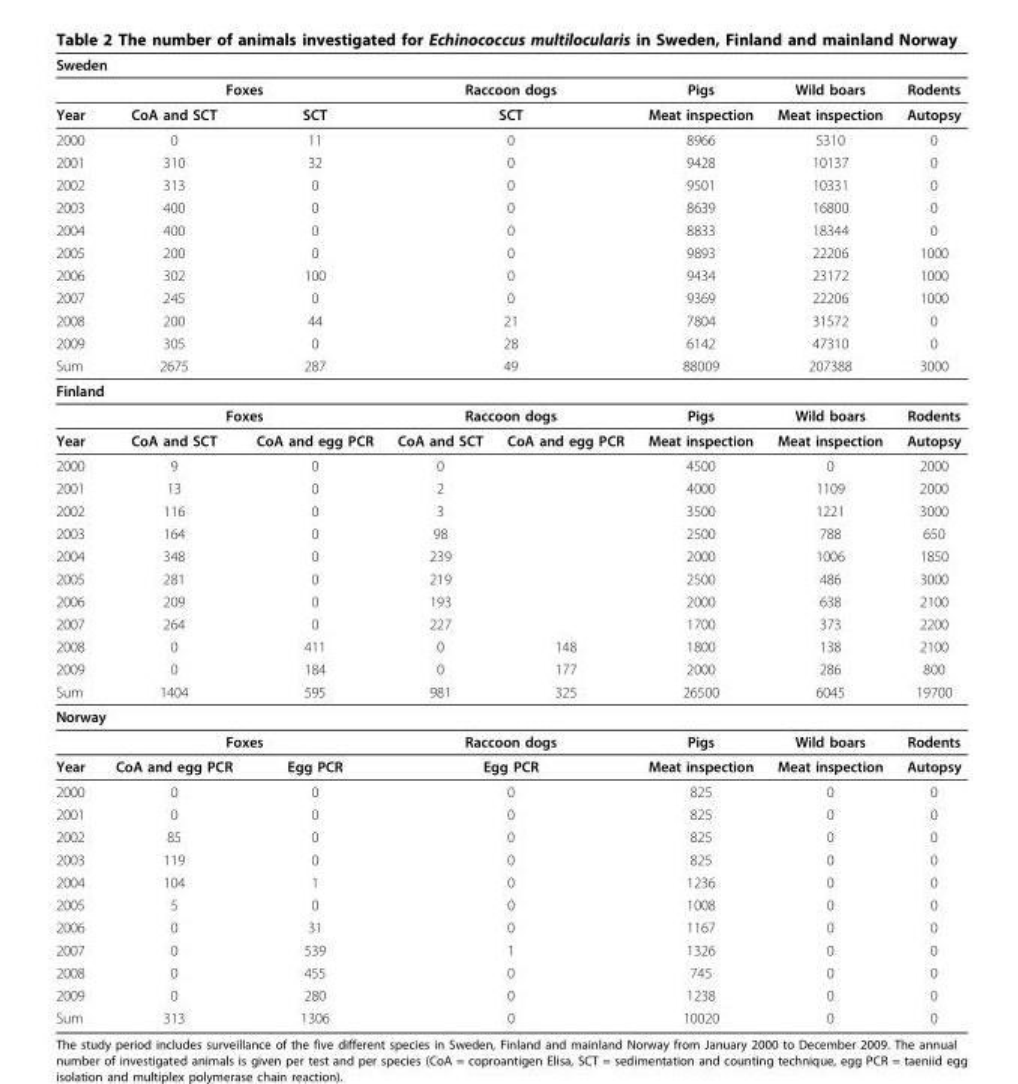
<table><thead><tr><td colspan="8">Sweden</td></tr></thead><tbody><tr><td></td><td colspan="2">Foxes</td><td colspan="2">Raccoon dogs</td><td>Pigs</td><td>Wild boars</td><td>Rodents</td></tr><tr><td>Year</td><td>CoA and SCT</td><td>SCT</td><td colspan="2">SCT</td><td>Meat inspection</td><td>Meat inspection</td><td>Autopsy</td></tr><tr><td>2000</td><td>0</td><td>11</td><td colspan="2">0</td><td>8966</td><td>5310</td><td>0</td></tr><tr><td>2001</td><td>310</td><td>32</td><td colspan="2">0</td><td>9428</td><td>10137</td><td>0</td></tr><tr><td>2002</td><td>313</td><td>0</td><td colspan="2">0</td><td>9501</td><td>10331</td><td>0</td></tr><tr><td>2003</td><td>400</td><td>0</td><td colspan="2">0</td><td>8639</td><td>16800</td><td>0</td></tr><tr><td>2004</td><td>400</td><td>0</td><td colspan="2">0</td><td>8833</td><td>18344</td><td>0</td></tr><tr><td>2005</td><td>200</td><td>0</td><td colspan="2">0</td><td>9893</td><td>22206</td><td>1000</td></tr><tr><td>2006</td><td>302</td><td>100</td><td colspan="2">0</td><td>9434</td><td>23172</td><td>1000</td></tr><tr><td>2007</td><td>245</td><td>0</td><td colspan="2">0</td><td>9369</td><td>22206</td><td>1000</td></tr><tr><td>2008</td><td>200</td><td>44</td><td colspan="2">21</td><td>7804</td><td>31572</td><td>0</td></tr><tr><td>2009</td><td>305</td><td>0</td><td colspan="2">28</td><td>6142</td><td>47310</td><td>0</td></tr><tr><td>Sum</td><td>2675</td><td>287</td><td colspan="2">49</td><td>88009</td><td>207388</td><td>3000</td></tr><tr><td colspan="8">Finland</td></tr><tr><td></td><td colspan="2">Foxes</td><td colspan="2">Raccoon dogs</td><td>Pigs</td><td>Wild boars</td><td>Rodents</td></tr><tr><td>Year</td><td>CoA and SCT</td><td>CoA and egg PCR</td><td>CoA and SCT</td><td>CoA and egg PCR</td><td>Meat inspection</td><td>Meat inspection</td><td>Autopsy</td></tr><tr><td>2000</td><td>9</td><td>0</td><td>0</td><td></td><td>4500</td><td>0</td><td>2000</td></tr><tr><td>2001</td><td>13</td><td>0</td><td>2</td><td></td><td>4000</td><td>1109</td><td>2000</td></tr><tr><td>2002</td><td>116</td><td>0</td><td>3</td><td></td><td>3500</td><td>1221</td><td>3000</td></tr><tr><td>2003</td><td>164</td><td>0</td><td>98</td><td></td><td>2500</td><td>788</td><td>650</td></tr><tr><td>2004</td><td>348</td><td>0</td><td>239</td><td></td><td>2000</td><td>1006</td><td>1850</td></tr><tr><td>2005</td><td>281</td><td>0</td><td>219</td><td></td><td>2500</td><td>486</td><td>3000</td></tr><tr><td>2006</td><td>209</td><td>0</td><td>193</td><td></td><td>2000</td><td>638</td><td>2100</td></tr><tr><td>2007</td><td>264</td><td>0</td><td>227</td><td></td><td>1700</td><td>373</td><td>2200</td></tr><tr><td>2008</td><td>0</td><td>411</td><td>0</td><td>148</td><td>1800</td><td>138</td><td>2100</td></tr><tr><td>2009</td><td>0</td><td>184</td><td>0</td><td>177</td><td>2000</td><td>286</td><td>800</td></tr><tr><td>Sum</td><td>1404</td><td>595</td><td>981</td><td>325</td><td>26500</td><td>6045</td><td>19700</td></tr><tr><td colspan="8">Norway</td></tr><tr><td></td><td colspan="2">Foxes</td><td colspan="2">Raccoon dogs</td><td>Pigs</td><td>Wild boars</td><td>Rodents</td></tr><tr><td>Year</td><td>CoA and egg PCR</td><td>Egg PCR</td><td colspan="2">Egg PCR</td><td>Meat inspection</td><td>Meat inspection</td><td>Autopsy</td></tr><tr><td>2000</td><td>0</td><td>0</td><td colspan="2">0</td><td>825</td><td>0</td><td>0</td></tr><tr><td>2001</td><td>0</td><td>0</td><td colspan="2">0</td><td>825</td><td>0</td><td>0</td></tr><tr><td>2002</td><td>85</td><td>0</td><td colspan="2">0</td><td>825</td><td>0</td><td>0</td></tr><tr><td>2003</td><td>119</td><td>0</td><td colspan="2">0</td><td>825</td><td>0</td><td>0</td></tr><tr><td>2004</td><td>104</td><td>1</td><td colspan="2">0</td><td>1236</td><td>0</td><td>0</td></tr><tr><td>2005</td><td>5</td><td>0</td><td colspan="2">0</td><td>1008</td><td>0</td><td>0</td></tr><tr><td>2006</td><td>0</td><td>31</td><td colspan="2">0</td><td>1167</td><td>0</td><td>0</td></tr><tr><td>2007</td><td>0</td><td>539</td><td colspan="2">1</td><td>1326</td><td>0</td><td>0</td></tr><tr><td>2008</td><td>0</td><td>455</td><td colspan="2">0</td><td>745</td><td>0</td><td>0</td></tr><tr><td>2009</td><td>0</td><td>280</td><td colspan="2">0</td><td>1238</td><td>0</td><td>0</td></tr><tr><td>Sum</td><td>313</td><td>1306</td><td colspan="2">0</td><td>10020</td><td>0</td><td>0</td></tr></tbody></table>